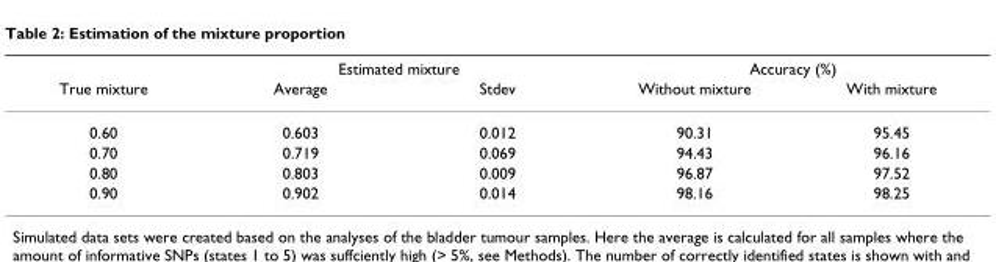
<table><thead><tr><td rowspan="2">True mixture</td><td colspan="2">Estimated mixture</td><td colspan="2">Accuracy (%)</td></tr><tr><td>Average</td><td>Stdev</td><td>Without mixture</td><td>With mixture</td></tr></thead><tbody><tr><td>0.60</td><td>0.603</td><td>0.012</td><td>90.31</td><td>95.45</td></tr><tr><td>0.70</td><td>0.719</td><td>0.069</td><td>94.43</td><td>96.16</td></tr><tr><td>0.80</td><td>0.803</td><td>0.009</td><td>96.87</td><td>97.52</td></tr><tr><td>0.90</td><td>0.902</td><td>0.014</td><td>98.16</td><td>98.25</td></tr></tbody></table>